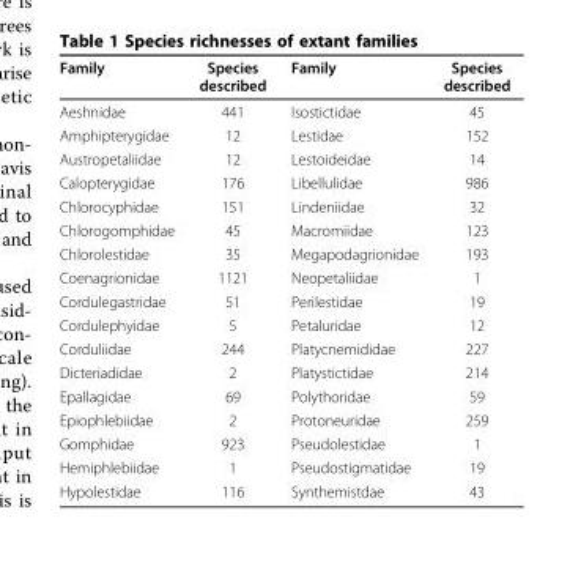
<table><thead><tr><td>Family</td><td>Species described</td><td>Family</td><td>Species described</td></tr></thead><tbody><tr><td>Aeshnidae</td><td>441</td><td>Isostictidae</td><td>45</td></tr><tr><td>Amphipterygidae</td><td>12</td><td>Lestidae</td><td>152</td></tr><tr><td>Austropetaliidae</td><td>12</td><td>Lestoideidae</td><td>14</td></tr><tr><td>Calopterygidae</td><td>176</td><td>Libellulidae</td><td>986</td></tr><tr><td>Chlorocyphidae</td><td>151</td><td>Lindeniidae</td><td>32</td></tr><tr><td>Chlorogomphidae</td><td>45</td><td>Macromiidae</td><td>123</td></tr><tr><td>Chlorolestidae</td><td>35</td><td>Megapodagrionidae</td><td>193</td></tr><tr><td>Coenagrionidae</td><td>1121</td><td>Neopetaliidae</td><td>1</td></tr><tr><td>Cordulegastridae</td><td>51</td><td>Perilestidae</td><td>19</td></tr><tr><td>Cordulephyidae</td><td>5</td><td>Petaluridae</td><td>12</td></tr><tr><td>Corduliidae</td><td>244</td><td>Platycnemididae</td><td>227</td></tr><tr><td>Dicteriadidae</td><td>2</td><td>Platystictidae</td><td>214</td></tr><tr><td>Epallagidae</td><td>69</td><td>Polythoridae</td><td>59</td></tr><tr><td>Epiophlebiidae</td><td>2</td><td>Protoneuridae</td><td>259</td></tr><tr><td>Gomphidae</td><td>923</td><td>Pseudolestidae</td><td>1</td></tr><tr><td>Hemiphlebiidae</td><td>1</td><td>Pseudostigmatidae</td><td>19</td></tr><tr><td>Hypolestidae</td><td>116</td><td>Synthemistdae</td><td>43</td></tr></tbody></table>